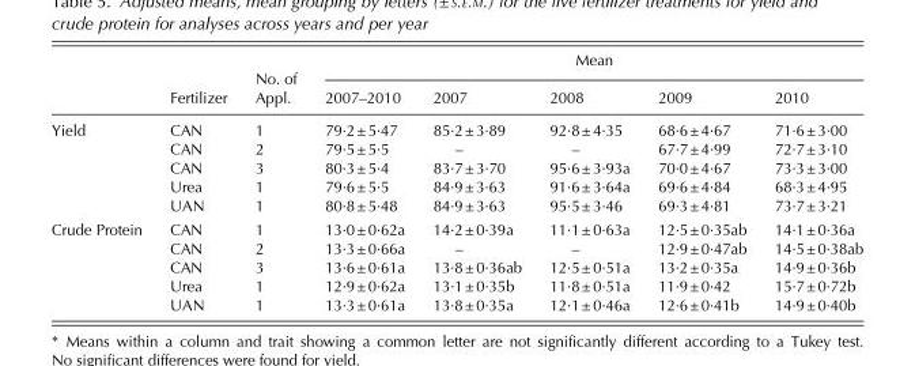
<table><thead><tr><td rowspan="2"></td><td rowspan="2">Fertilizer</td><td rowspan="2">No. of Appl.</td><td colspan="5">Mean</td></tr><tr><td>2007–2010</td><td>2007</td><td>2008</td><td>2009</td><td>2010</td></tr></thead><tbody><tr><td rowspan="5">Yield</td><td>CAN</td><td>1</td><td>79·2±5·47</td><td>85·2±3·89</td><td>92·8±4·35</td><td>68·6±4·67</td><td>71·6±3·00</td></tr><tr><td>CAN</td><td>2</td><td>79·5±5·5</td><td>–</td><td>–</td><td>67·7±4·99</td><td>72·7±3·10</td></tr><tr><td>CAN</td><td>3</td><td>80·3±5·4</td><td>83·7±3·70</td><td>95·6±3·93a</td><td>70·0±4·67</td><td>73·3±3·00</td></tr><tr><td>Urea</td><td>1</td><td>79·6±5·5</td><td>84·9±3·63</td><td>91·6±3·64a</td><td>69·6±4·84</td><td>68·3±4·95</td></tr><tr><td>UAN</td><td>1</td><td>80·8±5·48</td><td>84·9±3·63</td><td>95·5±3·46</td><td>69·3±4·81</td><td>73·7±3·21</td></tr><tr><td rowspan="5">Crude Protein</td><td>CAN</td><td>1</td><td>13·0±0·62a</td><td>14·2±0·39a</td><td>11·1±0·63a</td><td>12·5±0·35ab</td><td>14·1±0·36a</td></tr><tr><td>CAN</td><td>2</td><td>13·3±0·66a</td><td>–</td><td>–</td><td>12·9±0·47ab</td><td>14·5±0·38ab</td></tr><tr><td>CAN</td><td>3</td><td>13·6±0·61a</td><td>13·8±0·36ab</td><td>12·5±0·51a</td><td>13·2±0·35a</td><td>14·9±0·36b</td></tr><tr><td>Urea</td><td>1</td><td>12·9±0·62a</td><td>13·1±0·35b</td><td>11·8±0·51a</td><td>11·9±0·42</td><td>15·7±0·72b</td></tr><tr><td>UAN</td><td>1</td><td>13·3±0·61a</td><td>13·8±0·35a</td><td>12·1±0·46a</td><td>12·6±0·41b</td><td>14·9±0·40b</td></tr></tbody></table>